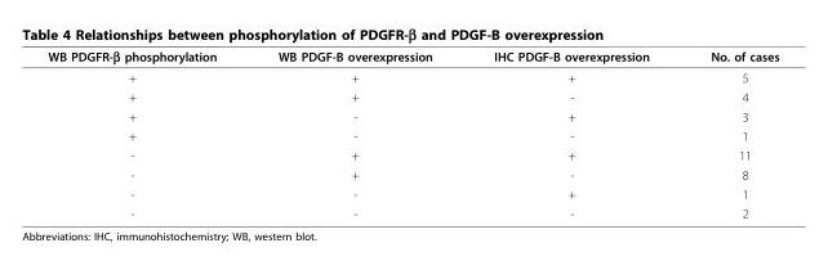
<table><thead><tr><td>WB PDGFR-β phosphorylation</td><td>WB PDGF-B overexpression</td><td>IHC PDGF-B overexpression</td><td>No. of cases</td></tr></thead><tbody><tr><td>+</td><td>+</td><td>+</td><td>5</td></tr><tr><td>+</td><td>+</td><td>-</td><td>4</td></tr><tr><td>+</td><td>-</td><td>+</td><td>3</td></tr><tr><td>+</td><td>-</td><td>-</td><td>1</td></tr><tr><td>-</td><td>+</td><td>+</td><td>11</td></tr><tr><td>-</td><td>+</td><td>-</td><td>8</td></tr><tr><td>-</td><td>-</td><td>+</td><td>1</td></tr><tr><td>-</td><td>-</td><td>-</td><td>2</td></tr></tbody></table>